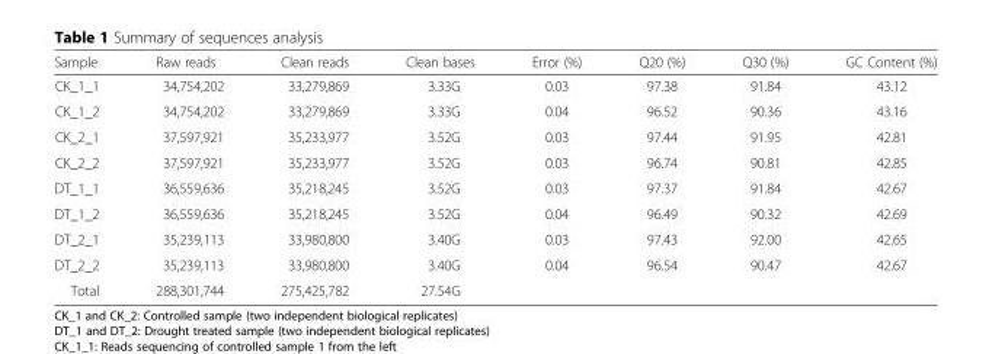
<table><thead><tr><td>Sample</td><td>Raw reads</td><td>Clean reads</td><td>Clean bases</td><td>Error (%)</td><td>Q20 (%)</td><td>Q30 (%)</td><td>GC Content (%)</td></tr></thead><tbody><tr><td>CK_1_1</td><td>34,754,202</td><td>33,279,869</td><td>3.33G</td><td>0.03</td><td>97.38</td><td>91.84</td><td>43.12</td></tr><tr><td>CK_1_2</td><td>34,754,202</td><td>33,279,869</td><td>3.33G</td><td>0.04</td><td>96.52</td><td>90.36</td><td>43.16</td></tr><tr><td>CK_2_1</td><td>37,597,921</td><td>35,233,977</td><td>3.52G</td><td>0.03</td><td>97.44</td><td>91.95</td><td>42.81</td></tr><tr><td>CK_2_2</td><td>37,597,921</td><td>35,233,977</td><td>3.52G</td><td>0.03</td><td>96.74</td><td>90.81</td><td>42.85</td></tr><tr><td>DT_1_1</td><td>36,559,636</td><td>35,218,245</td><td>3.52G</td><td>0.03</td><td>97.37</td><td>91.84</td><td>42.67</td></tr><tr><td>DT_1_2</td><td>36,559,636</td><td>35,218,245</td><td>3.52G</td><td>0.04</td><td>96.49</td><td>90.32</td><td>42.69</td></tr><tr><td>DT_2_1</td><td>35,239,113</td><td>33,980,800</td><td>3.40G</td><td>0.03</td><td>97.43</td><td>92.00</td><td>42.65</td></tr><tr><td>DT_2_2</td><td>35,239,113</td><td>33,980,800</td><td>3.40G</td><td>0.04</td><td>96.54</td><td>90.47</td><td>42.67</td></tr><tr><td>Total</td><td>288,301,744</td><td>275,425,782</td><td>27.54G</td><td></td><td></td><td></td><td></td></tr></tbody></table>